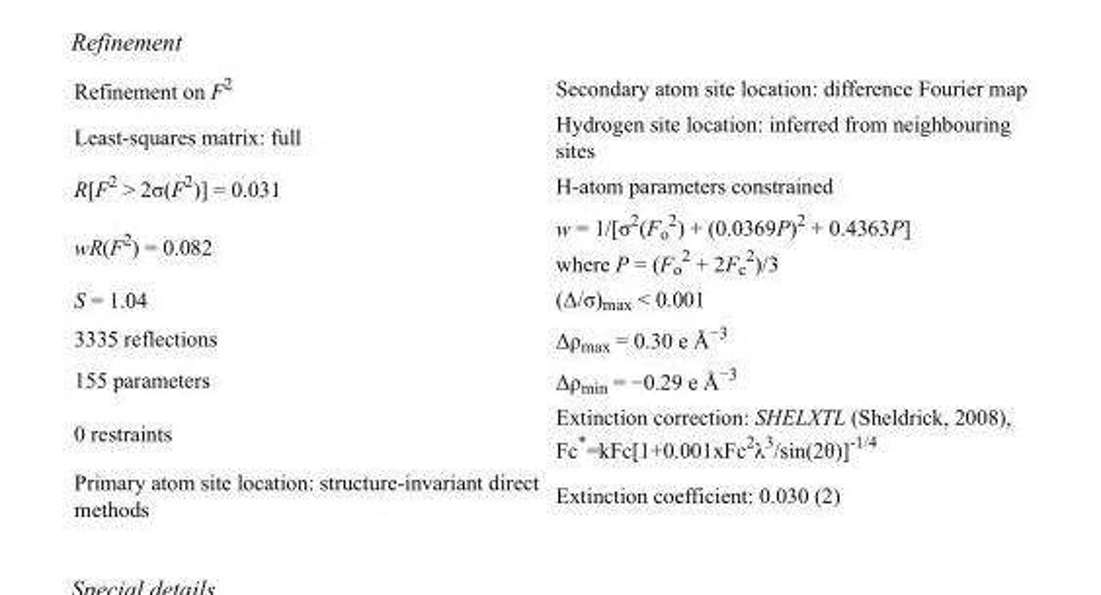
<table><tbody><tr><td>Refinement on F<sup>2</sup></td><td>Secondary atom site location: difference Fourier map</td></tr><tr><td>Least-squares matrix: full</td><td>Hydrogen site location: inferred from neighbouring sites</td></tr><tr><td>R[F<sup>2</sup> &gt; 2σ(F<sup>2</sup>)] = 0.031</td><td>H-atom parameters constrained</td></tr><tr><td>wR(F<sup>2</sup>) = 0.082</td><td>w = 1/[σ<sup>2</sup>(F<sub>o</sub> <sup>2</sup>) + (0.0369P)<sup>2</sup> + 0.4363P] where P = (F<sub>o</sub> <sup>2</sup> + 2F<sub>c</sub> <sup>2</sup>)/3</td></tr><tr><td>S = 1.04</td><td>(Δ/σ)<sub>max</sub> &lt; 0.001</td></tr><tr><td>3335 reflections</td><td>Δρ<sub>max</sub> = 0.30 e Å<sup>−3</sup></td></tr><tr><td>155 parameters</td><td>Δρ<sub>min</sub> = −0.29 e Å<sup>−3</sup></td></tr><tr><td>0 restraints</td><td>Extinction correction: SHELXTL (Sheldrick, 2008), Fc*=kFc[1+0.001xFc<sup>2</sup>λ<sup>3</sup>/sin(2θ)]<sup>-1/4</sup></td></tr><tr><td>Primary atom site location: structure-invariant direct methods</td><td>Extinction coefficient: 0.030 (2)</td></tr></tbody></table>